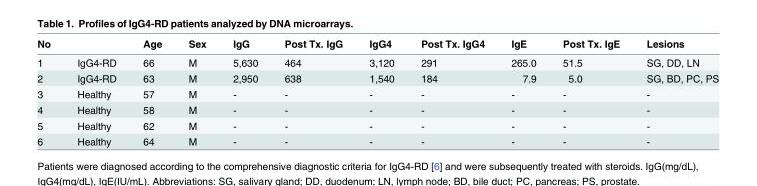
<table><thead><tr><td>No</td><td></td><td>Age</td><td>Sex</td><td>IgG</td><td>Post Tx. IgG</td><td>IgG4</td><td>Post Tx. IgG4</td><td>IgE</td><td>Post Tx. IgE</td><td>Lesions</td></tr></thead><tbody><tr><td>1</td><td>IgG4-RD</td><td>66</td><td>M</td><td>5,630</td><td>464</td><td>3,120</td><td>291</td><td>265.0</td><td>51.5</td><td>SG, DD, LN</td></tr><tr><td>2</td><td>IgG4-RD</td><td>63</td><td>M</td><td>2,950</td><td>638</td><td>1,540</td><td>184</td><td>7.9</td><td>5.0</td><td>SG, BD, PC, PS</td></tr><tr><td>3</td><td>Healthy</td><td>57</td><td>M</td><td>-</td><td>-</td><td>-</td><td>-</td><td>-</td><td>-</td><td>-</td></tr><tr><td>4</td><td>Healthy</td><td>58</td><td>M</td><td>-</td><td>-</td><td>-</td><td>-</td><td>-</td><td>-</td><td>-</td></tr><tr><td>5</td><td>Healthy</td><td>62</td><td>M</td><td>-</td><td>-</td><td>-</td><td>-</td><td>-</td><td>-</td><td>-</td></tr><tr><td>6</td><td>Healthy</td><td>64</td><td>M</td><td>-</td><td>-</td><td>-</td><td>-</td><td>-</td><td>-</td><td>-</td></tr></tbody></table>